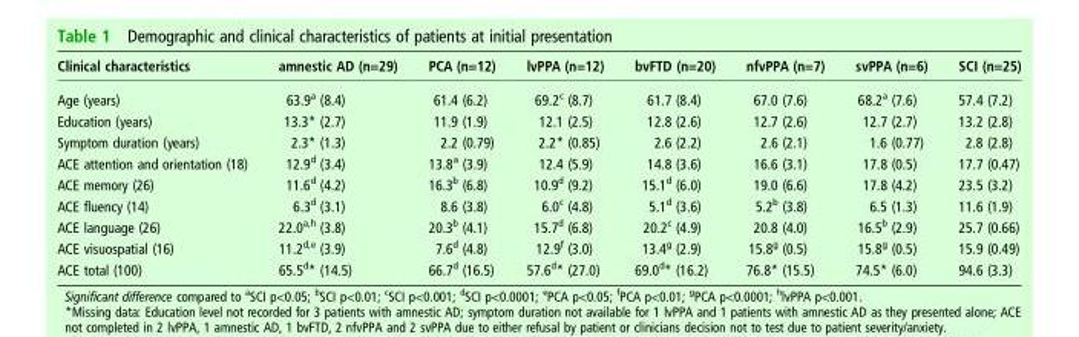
<table><thead><tr><td>Clinical characteristics</td><td>amnestic AD (n=29)</td><td>PCA (n=12)</td><td>lvPPA (n=12)</td><td>bvFTD (n=20)</td><td>nfvPPA (n=7)</td><td>svPPA (n=6)</td><td>SCI (n=25)</td></tr></thead><tbody><tr><td>Age (years)</td><td>63.9<sup>a</sup> (8.4)</td><td>61.4 (6.2)</td><td>69.2<sup>c</sup> (8.7)</td><td>61.7 (8.4)</td><td>67.0 (7.6)</td><td>68.2<sup>a</sup> (7.6)</td><td>57.4 (7.2)</td></tr><tr><td>Education (years)</td><td>13.3* (2.7)</td><td>11.9 (1.9)</td><td>12.1 (2.5)</td><td>12.8 (2.6)</td><td>12.7 (2.6)</td><td>12.7 (2.7)</td><td>13.2 (2.8)</td></tr><tr><td>Symptom duration (years)</td><td>2.3* (1.3)</td><td>2.2 (0.79)</td><td>2.2* (0.85)</td><td>2.6 (2.2)</td><td>2.6 (2.1)</td><td>1.6 (0.77)</td><td>2.8 (2.8)</td></tr><tr><td>ACE attention and orientation (18)</td><td>12.9<sup>d</sup> (3.4)</td><td>13.8<sup>a</sup> (3.9)</td><td>12.4 (5.9)</td><td>14.8 (3.6)</td><td>16.6 (3.1)</td><td>17.8 (0.5)</td><td>17.7 (0.47)</td></tr><tr><td>ACE memory (26)</td><td>11.6<sup>d</sup> (4.2)</td><td>16.3<sup>b</sup> (6.8)</td><td>10.9<sup>d</sup> (9.2)</td><td>15.1<sup>d</sup> (6.0)</td><td>19.0 (6.6)</td><td>17.8 (4.2)</td><td>23.5 (3.2)</td></tr><tr><td>ACE fluency (14)</td><td>6.3<sup>d</sup> (3.1)</td><td>8.6 (3.8)</td><td>6.0<sup>c</sup> (4.8)</td><td>5.1<sup>d</sup> (3.6)</td><td>5.2<sup>b</sup> (3.8)</td><td>6.5 (1.3)</td><td>11.6 (1.9)</td></tr><tr><td>ACE language (26)</td><td>22.0<sup>a,h</sup> (3.8)</td><td>20.3<sup>b</sup> (4.1)</td><td>15.7<sup>d</sup> (6.8)</td><td>20.2<sup>c</sup> (4.9)</td><td>20.8 (4.0)</td><td>16.5<sup>b</sup> (2.9)</td><td>25.7 (0.66)</td></tr><tr><td>ACE visuospatial (16)</td><td>11.2<sup>d,e</sup> (3.9)</td><td>7.6<sup>d</sup> (4.8)</td><td>12.9<sup>f</sup> (3.0)</td><td>13.4<sup>g</sup> (2.9)</td><td>15.8<sup>g</sup> (0.5)</td><td>15.8<sup>g</sup> (0.5)</td><td>15.9 (0.49)</td></tr><tr><td>ACE total (100)</td><td>65.5<sup>d</sup>* (14.5)</td><td>66.7<sup>d</sup> (16.5)</td><td>57.6<sup>d</sup>* (27.0)</td><td>69.0<sup>d</sup>* (16.2)</td><td>76.8* (15.5)</td><td>74.5* (6.0)</td><td>94.6 (3.3)</td></tr></tbody></table>